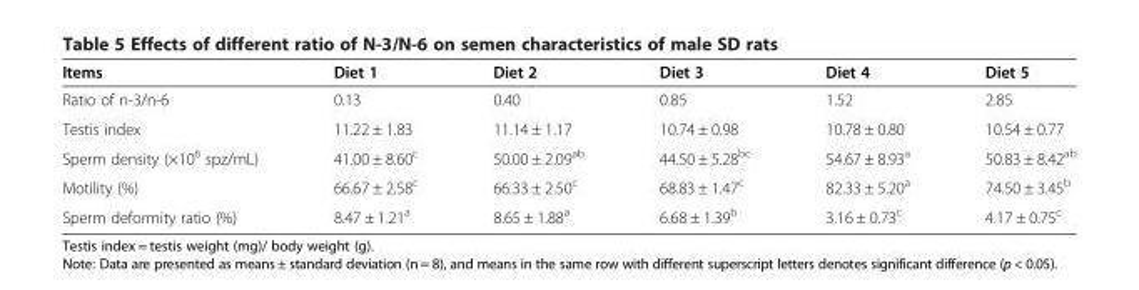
<table><thead><tr><td>Items</td><td>Diet 1</td><td>Diet 2</td><td>Diet 3</td><td>Diet 4</td><td>Diet 5</td></tr></thead><tbody><tr><td>Ratio of n-3/n-6</td><td>0.13</td><td>0.40</td><td>0.85</td><td>1.52</td><td>2.85</td></tr><tr><td>Testis index</td><td>11.22 ± 1.83</td><td>11.14 ± 1.17</td><td>10.74 ± 0.98</td><td>10.78 ± 0.80</td><td>10.54 ± 0.77</td></tr><tr><td>Sperm density (×10<sup>6</sup> spz/mL)</td><td>41.00 ± 8.60<sup>c</sup></td><td>50.00 ± 2.09<sup>ab</sup></td><td>44.50 ± 5.28<sup>bc</sup></td><td>54.67 ± 8.93<sup>a</sup></td><td>50.83 ± 8.42<sup>ab</sup></td></tr><tr><td>Motility (%)</td><td>66.67 ± 2.58<sup>c</sup></td><td>66.33 ± 2.50<sup>c</sup></td><td>68.83 ± 1.47<sup>c</sup></td><td>82.33 ± 5.20<sup>a</sup></td><td>74.50 ± 3.45<sup>b</sup></td></tr><tr><td>Sperm deformity ratio (%)</td><td>8.47 ± 1.21<sup>a</sup></td><td>8.65 ± 1.88<sup>a</sup></td><td>6.68 ± 1.39<sup>b</sup></td><td>3.16 ± 0.73<sup>c</sup></td><td>4.17 ± 0.75<sup>c</sup></td></tr></tbody></table>